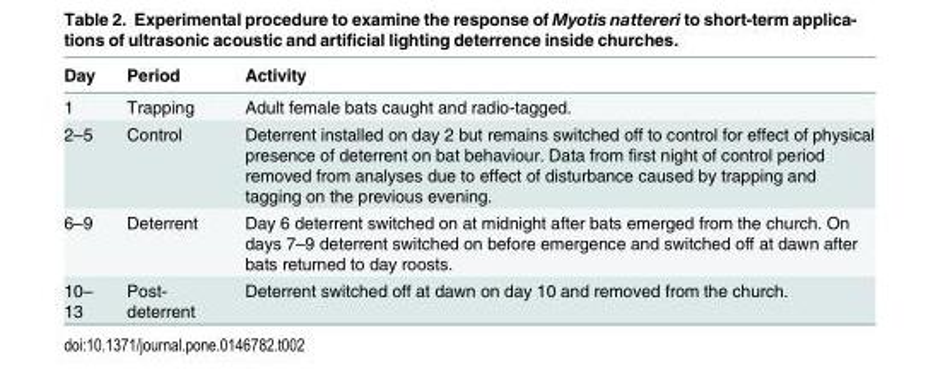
<table><thead><tr><td>Day</td><td>Period</td><td>Activity</td></tr></thead><tbody><tr><td>1</td><td>Trapping</td><td>Adult female bats caught and radio-tagged.</td></tr><tr><td>2–5</td><td>Control</td><td>Deterrent installed on day 2 but remains switched off to control for effect of physical presence of deterrent on bat behaviour. Data from first night of control period removed from analyses due to effect of disturbance caused by trapping and tagging on the previous evening.</td></tr><tr><td>6–9</td><td>Deterrent</td><td>Day 6 deterrent switched on at midnight after bats emerged from the church. On days 7–9 deterrent switched on before emergence and switched off at dawn after bats returned to day roosts.</td></tr><tr><td>10– 13</td><td>Post- deterrent</td><td>Deterrent switched off at dawn on day 10 and removed from the church.</td></tr></tbody></table>